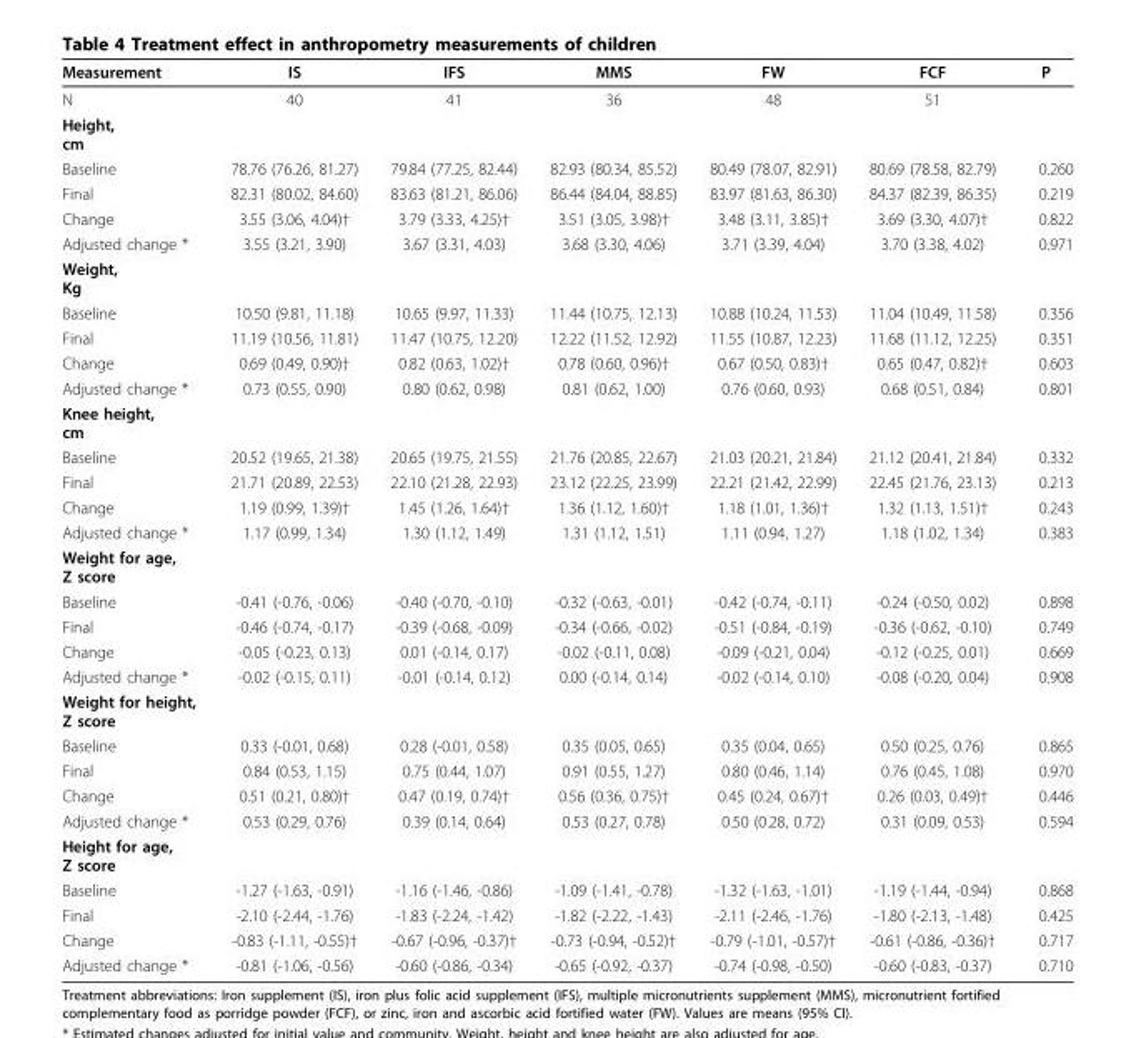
<table><thead><tr><td>Measurement</td><td>IS</td><td>IFS</td><td>MMS</td><td>FW</td><td>FCF</td><td>P</td></tr></thead><tbody><tr><td>N</td><td>40</td><td>41</td><td>36</td><td>48</td><td>51</td><td></td></tr><tr><td colspan="7">Height, cm</td></tr><tr><td>Baseline</td><td>78.76 (76.26, 81.27)</td><td>79.84 (77.25, 82.44)</td><td>82.93 (80.34, 85.52)</td><td>80.49 (78.07, 82.91)</td><td>80.69 (78.58, 82.79)</td><td>0.260</td></tr><tr><td>Final</td><td>82.31 (80.02, 84.60)</td><td>83.63 (81.21, 86.06)</td><td>86.44 (84.04, 88.85)</td><td>83.97 (81.63, 86.30)</td><td>84.37 (82.39, 86.35)</td><td>0.219</td></tr><tr><td>Change</td><td>3.55 (3.06, 4.04)†</td><td>3.79 (3.33, 4.25)†</td><td>3.51 (3.05, 3.98)†</td><td>3.48 (3.11, 3.85)†</td><td>3.69 (3.30, 4.07)†</td><td>0.822</td></tr><tr><td>Adjusted change *</td><td>3.55 (3.21, 3.90)</td><td>3.67 (3.31, 4.03)</td><td>3.68 (3.30, 4.06)</td><td>3.71 (3.39, 4.04)</td><td>3.70 (3.38, 4.02)</td><td>0.971</td></tr><tr><td colspan="7">Weight, Kg</td></tr><tr><td>Baseline</td><td>10.50 (9.81, 11.18)</td><td>10.65 (9.97, 11.33)</td><td>11.44 (10.75, 12.13)</td><td>10.88 (10.24, 11.53)</td><td>11.04 (10.49, 11.58)</td><td>0.356</td></tr><tr><td>Final</td><td>11.19 (10.56, 11.81)</td><td>11.47 (10.75, 12.20)</td><td>12.22 (11.52, 12.92)</td><td>11.55 (10.87, 12.23)</td><td>11.68 (11.12, 12.25)</td><td>0.351</td></tr><tr><td>Change</td><td>0.69 (0.49, 0.90)†</td><td>0.82 (0.63, 1.02)†</td><td>0.78 (0.60, 0.96)†</td><td>0.67 (0.50, 0.83)†</td><td>0.65 (0.47, 0.82)†</td><td>0.603</td></tr><tr><td>Adjusted change *</td><td>0.73 (0.55, 0.90)</td><td>0.80 (0.62, 0.98)</td><td>0.81 (0.62, 1.00)</td><td>0.76 (0.60, 0.93)</td><td>0.68 (0.51, 0.84)</td><td>0.801</td></tr><tr><td colspan="7">Knee height, cm</td></tr><tr><td>Baseline</td><td>20.52 (19.65, 21.38)</td><td>20.65 (19.75, 21.55)</td><td>21.76 (20.85, 22.67)</td><td>21.03 (20.21, 21.84)</td><td>21.12 (20.41, 21.84)</td><td>0.332</td></tr><tr><td>Final</td><td>21.71 (20.89, 22.53)</td><td>22.10 (21.28, 22.93)</td><td>23.12 (22.25, 23.99)</td><td>22.21 (21.42, 22.99)</td><td>22.45 (21.76, 23.13)</td><td>0.213</td></tr><tr><td>Change</td><td>1.19 (0.99, 1.39)†</td><td>1.45 (1.26, 1.64)†</td><td>1.36 (1.12, 1.60)†</td><td>1.18 (1.01, 1.36)†</td><td>1.32 (1.13, 1.51)†</td><td>0.243</td></tr><tr><td>Adjusted change *</td><td>1.17 (0.99, 1.34)</td><td>1.30 (1.12, 1.49)</td><td>1.31 (1.12, 1.51)</td><td>1.11 (0.94, 1.27)</td><td>1.18 (1.02, 1.34)</td><td>0.383</td></tr><tr><td colspan="7">Weight for age, Z score</td></tr><tr><td>Baseline</td><td>-0.41 (-0.76, -0.06)</td><td>-0.40 (-0.70, -0.10)</td><td>-0.32 (-0.63, -0.01)</td><td>-0.42 (-0.74, -0.11)</td><td>-0.24 (-0.50, 0.02)</td><td>0.898</td></tr><tr><td>Final</td><td>-0.46 (-0.74, -0.17)</td><td>-0.39 (-0.68, -0.09)</td><td>-0.34 (-0.66, -0.02)</td><td>-0.51 (-0.84, -0.19)</td><td>-0.36 (-0.62, -0.10)</td><td>0.749</td></tr><tr><td>Change</td><td>-0.05 (-0.23, 0.13)</td><td>0.01 (-0.14, 0.17)</td><td>-0.02 (-0.11, 0.08)</td><td>-0.09 (-0.21, 0.04)</td><td>-0.12 (-0.25, 0.01)</td><td>0.669</td></tr><tr><td>Adjusted change *</td><td>-0.02 (-0.15, 0.11)</td><td>-0.01 (-0.14, 0.12)</td><td>0.00 (-0.14, 0.14)</td><td>-0.02 (-0.14, 0.10)</td><td>-0.08 (-0.20, 0.04)</td><td>0.908</td></tr><tr><td colspan="7">Weight for height, Z score</td></tr><tr><td>Baseline</td><td>0.33 (-0.01, 0.68)</td><td>0.28 (-0.01, 0.58)</td><td>0.35 (0.05, 0.65)</td><td>0.35 (0.04, 0.65)</td><td>0.50 (0.25, 0.76)</td><td>0.865</td></tr><tr><td>Final</td><td>0.84 (0.53, 1.15)</td><td>0.75 (0.44, 1.07)</td><td>0.91 (0.55, 1.27)</td><td>0.80 (0.46, 1.14)</td><td>0.76 (0.45, 1.08)</td><td>0.970</td></tr><tr><td>Change</td><td>0.51 (0.21, 0.80)†</td><td>0.47 (0.19, 0.74)†</td><td>0.56 (0.36, 0.75)†</td><td>0.45 (0.24, 0.67)†</td><td>0.26 (0.03, 0.49)†</td><td>0.446</td></tr><tr><td>Adjusted change *</td><td>0.53 (0.29, 0.76)</td><td>0.39 (0.14, 0.64)</td><td>0.53 (0.27, 0.78)</td><td>0.50 (0.28, 0.72)</td><td>0.31 (0.09, 0.53)</td><td>0.594</td></tr><tr><td colspan="7">Height for age, Z score</td></tr><tr><td>Baseline</td><td>-1.27 (-1.63, -0.91)</td><td>-1.16 (-1.46, -0.86)</td><td>-1.09 (-1.41, -0.78)</td><td>-1.32 (-1.63, -1.01)</td><td>-1.19 (-1.44, -0.94)</td><td>0.868</td></tr><tr><td>Final</td><td>-2.10 (-2.44, -1.76)</td><td>-1.83 (-2.24, -1.42)</td><td>-1.82 (-2.22, -1.43)</td><td>-2.11 (-2.46, -1.76)</td><td>-1.80 (-2.13, -1.48)</td><td>0.425</td></tr><tr><td>Change</td><td>-0.83 (-1.11, -0.55)†</td><td>-0.67 (-0.96, -0.37)†</td><td>-0.73 (-0.94, -0.52)†</td><td>-0.79 (-1.01, -0.57)†</td><td>-0.61 (-0.86, -0.36)†</td><td>0.717</td></tr><tr><td>Adjusted change *</td><td>-0.81 (-1.06, -0.56)</td><td>-0.60 (-0.86, -0.34)</td><td>-0.65 (-0.92, -0.37)</td><td>-0.74 (-0.98, -0.50)</td><td>-0.60 (-0.83, -0.37)</td><td>0.710</td></tr></tbody></table>